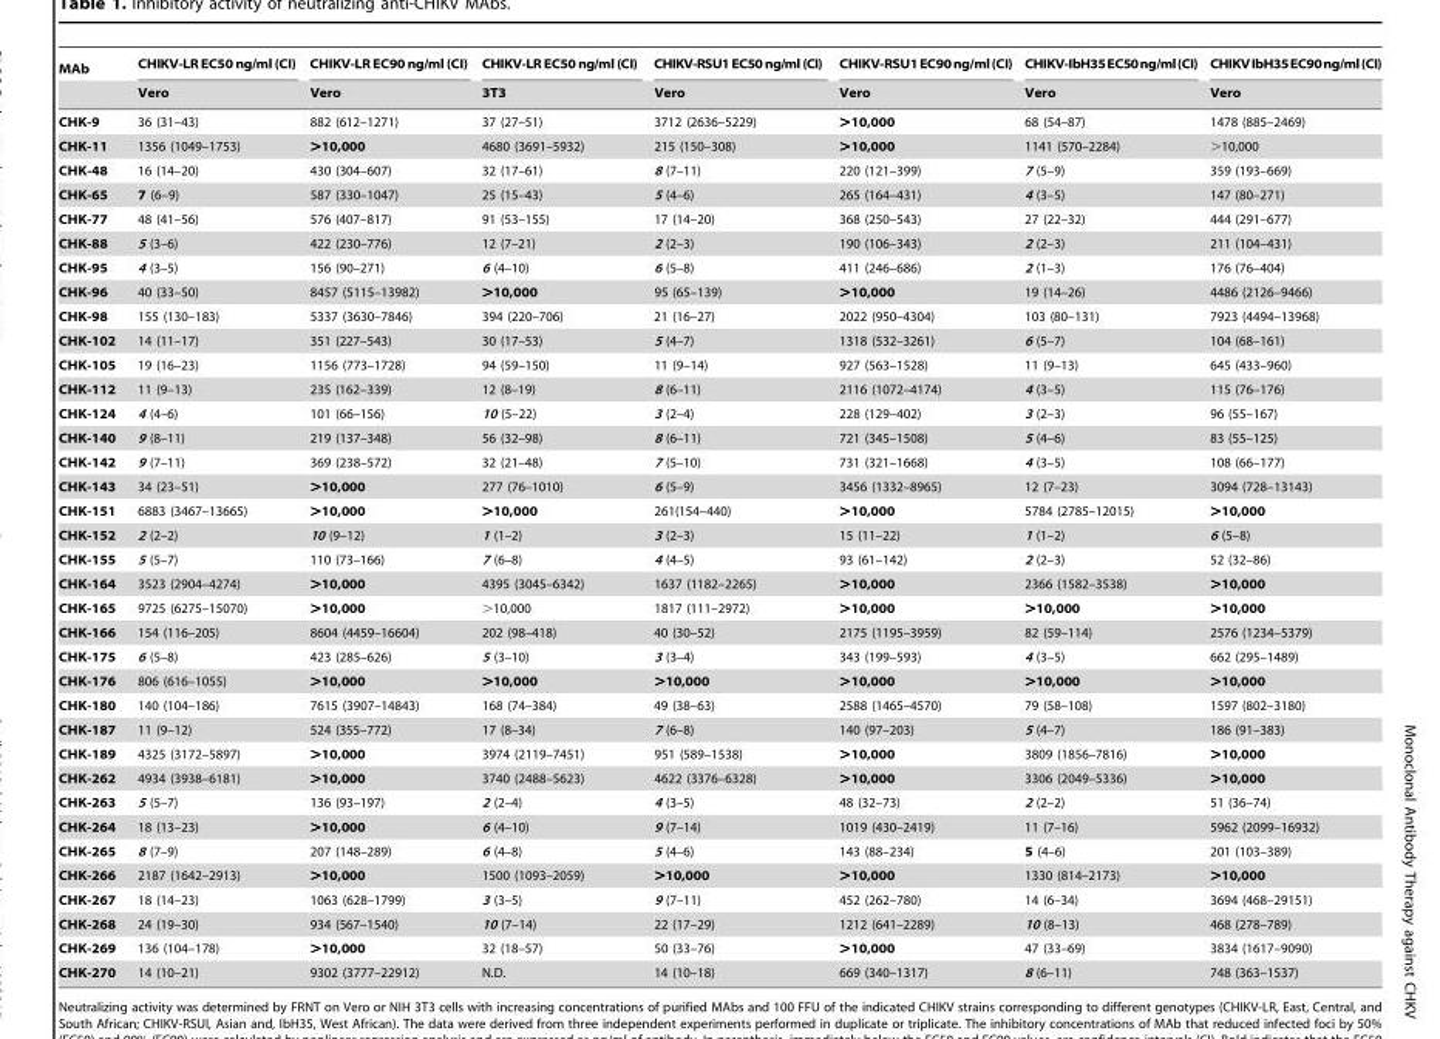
<table><thead><tr><td rowspan="2">MAb</td><td rowspan="2">CHIKV-LR EC50 ng/ml (CI) Vero</td><td rowspan="2">CHIKV-LR EC90 ng/ml (CI) Vero</td><td rowspan="2">CHIKV-LR EC50 ng/ml (CI) 3T3</td><td rowspan="2">CHIKV-RSU1 EC50ng/ml(CI) Vero</td><td rowspan="2">CHIKV-RSU1EC90ng/ml(CI) Vero</td><td rowspan="2">CHIKV-IbH35EC50ng/ml(CI) Vero</td><td rowspan="2">CHIKVIbH35EC90ng/ml(CI) Vero</td></tr><tr></tr></thead><tbody><tr><td>CHK-9</td><td>36 (31–43)</td><td>882 (612–1271)</td><td>37 (27–51)</td><td>3712 (2636–5229)</td><td>&gt;10,000</td><td>68 (54–87)</td><td>1478 (885–2469)</td></tr><tr><td>CHK-11</td><td>1356 (1049–1753)</td><td>&gt;10,000</td><td>4680 (3691–5932)</td><td>215 (150–308)</td><td>&gt;10,000</td><td>1141 (570–2284)</td><td>&gt;10,000</td></tr><tr><td>CHK-48</td><td>16 (14–20)</td><td>430 (304–607)</td><td>32 (17–61)</td><td>8 (7–11)</td><td>220 (121–399)</td><td>7 (5–9)</td><td>359 (193–669)</td></tr><tr><td>CHK-65</td><td>7 (6–9)</td><td>587 (330–1047)</td><td>25 (15–43)</td><td>5 (4–6)</td><td>265 (164–431)</td><td>4 (3–5)</td><td>147 (80–271)</td></tr><tr><td>CHK-77</td><td>48 (41–56)</td><td>576 (407–817)</td><td>91 (53–155)</td><td>17 (14–20)</td><td>368 (250–543)</td><td>27 (22–32)</td><td>444 (291–677)</td></tr><tr><td>CHK-88</td><td>5 (3–6)</td><td>422 (230–776)</td><td>12 (7–21)</td><td>2 (2–3)</td><td>190 (106–343)</td><td>2 (2–3)</td><td>211 (104–431)</td></tr><tr><td>CHK-95</td><td>4 (3–5)</td><td>156 (90–271)</td><td>6 (4–10)</td><td>6 (5–8)</td><td>411 (246–686)</td><td>2 (1–3)</td><td>176 (76–404)</td></tr><tr><td>CHK-96</td><td>40 (33–50)</td><td>8457 (5115–13982)</td><td>&gt;10,000</td><td>95 (65–139)</td><td>&gt;10,000</td><td>19 (14–26)</td><td>4486 (2126–9466)</td></tr><tr><td>CHK-98</td><td>155 (130–183)</td><td>5337 (3630–7846)</td><td>394 (220–706)</td><td>21 (16–27)</td><td>2022 (950–4304)</td><td>103 (80–131)</td><td>7923 (4494–13968)</td></tr><tr><td>CHK-102</td><td>14 (11–17)</td><td>351 (227–543)</td><td>30 (17–53)</td><td>5 (4–7)</td><td>1318 (532–3261)</td><td>6 (5–7)</td><td>104 (68–161)</td></tr><tr><td>CHK-105</td><td>19 (16–23)</td><td>1156 (773–1728)</td><td>94 (59–150)</td><td>11 (9–14)</td><td>927 (563–1528)</td><td>11 (9–13)</td><td>645 (433–960)</td></tr><tr><td>CHK-112</td><td>11 (9–13)</td><td>235 (162–339)</td><td>12 (8–19)</td><td>8 (6–11)</td><td>2116 (1072–4174)</td><td>4 (3–5)</td><td>115 (76–176)</td></tr><tr><td>CHK-124</td><td>4 (4–6)</td><td>101 (66–156)</td><td>10 (5–22)</td><td>3 (2–4)</td><td>228 (129–402)</td><td>3 (2–3)</td><td>96 (55–167)</td></tr><tr><td>CHK-140</td><td>9 (8–11)</td><td>219 (137–348)</td><td>56 (32–98)</td><td>8 (6–11)</td><td>721 (345–1508)</td><td>5 (4–6)</td><td>83 (55–125)</td></tr><tr><td>CHK-142</td><td>9 (7–11)</td><td>369 (238–572)</td><td>32 (21–48)</td><td>7 (5–10)</td><td>731 (321–1668)</td><td>4 (3–5)</td><td>108 (66–177)</td></tr><tr><td>CHK-143</td><td>34 (23–51)</td><td>&gt;10,000</td><td>277 (76–1010)</td><td>6 (5–9)</td><td>3456 (1332–8965)</td><td>12 (7–23)</td><td>3094 (728–13143)</td></tr><tr><td>CHK-151</td><td>6883 (3467–13665)</td><td>&gt;10,000</td><td>&gt;10,000</td><td>261(154–440)</td><td>&gt;10,000</td><td>5784 (2785–12015)</td><td>&gt;10,000</td></tr><tr><td>CHK-152</td><td>2 (2–2)</td><td>10 (9–12)</td><td>1 (1–2)</td><td>3 (2–3)</td><td>15 (11–22)</td><td>1 (1–2)</td><td>6 (5–8)</td></tr><tr><td>CHK-155</td><td>5 (5–7)</td><td>110 (73–166)</td><td>7 (6–8)</td><td>4 (4–5)</td><td>93 (61–142)</td><td>2 (2–3)</td><td>52 (32–86)</td></tr><tr><td>CHK-164</td><td>3523 (2904–4274)</td><td>&gt;10,000</td><td>4395 (3045–6342)</td><td>1637 (1182–2265)</td><td>&gt;10,000</td><td>2366 (1582–3538)</td><td>&gt;10,000</td></tr><tr><td>CHK-165</td><td>9725 (6275–15070)</td><td>&gt;10,000</td><td>&gt;10,000</td><td>1817 (111–2972)</td><td>&gt;10,000</td><td>&gt;10,000</td><td>&gt;10,000</td></tr><tr><td>CHK-166</td><td>154 (116–205)</td><td>8604 (4459–16604)</td><td>202 (98–418)</td><td>40 (30–52)</td><td>2175 (1195–3959)</td><td>82 (59–114)</td><td>2576 (1234–5379)</td></tr><tr><td>CHK-175</td><td>6 (5–8)</td><td>423 (285–626)</td><td>5 (3–10)</td><td>3 (3–4)</td><td>343 (199–593)</td><td>4 (3–5)</td><td>662 (295–1489)</td></tr><tr><td>CHK-176</td><td>806 (616–1055)</td><td>&gt;10,000</td><td>&gt;10,000</td><td>&gt;10,000</td><td>&gt;10,000</td><td>&gt;10,000</td><td>&gt;10,000</td></tr><tr><td>CHK-180</td><td>140 (104–186)</td><td>7615 (3907–14843)</td><td>168 (74–384)</td><td>49 (38–63)</td><td>2588 (1465–4570)</td><td>79 (58–108)</td><td>1597 (802–3180)</td></tr><tr><td>CHK-187</td><td>11 (9–12)</td><td>524 (355–772)</td><td>17 (8–34)</td><td>7 (6–8)</td><td>140 (97–203)</td><td>5 (4–7)</td><td>186 (91–383)</td></tr><tr><td>CHK-189</td><td>4325 (3172–5897)</td><td>&gt;10,000</td><td>3974 (2119–7451)</td><td>951 (589–1538)</td><td>&gt;10,000</td><td>3809 (1856–7816)</td><td>&gt;10,000</td></tr><tr><td>CHK-262</td><td>4934 (3938–6181)</td><td>&gt;10,000</td><td>3740 (2488–5623)</td><td>4622 (3376–6328)</td><td>&gt;10,000</td><td>3306 (2049–5336)</td><td>&gt;10,000</td></tr><tr><td>CHK-263</td><td>5 (5–7)</td><td>136 (93–197)</td><td>2 (2–4)</td><td>4 (3–5)</td><td>48 (32–73)</td><td>2 (2–2)</td><td>51 (36–74)</td></tr><tr><td>CHK-264</td><td>18 (13–23)</td><td>&gt;10,000</td><td>6 (4–10)</td><td>9 (7–14)</td><td>1019 (430–2419)</td><td>11 (7–16)</td><td>5962 (2099–16932)</td></tr><tr><td>CHK-265</td><td>8 (7–9)</td><td>207 (148–289)</td><td>6 (4–8)</td><td>5 (4–6)</td><td>143 (88–234)</td><td>5 (4–6)</td><td>201 (103–389)</td></tr><tr><td>CHK-266</td><td>2187 (1642–2913)</td><td>&gt;10,000</td><td>1500 (1093–2059)</td><td>&gt;10,000</td><td>&gt;10,000</td><td>1330 (814–2173)</td><td>&gt;10,000</td></tr><tr><td>CHK-267</td><td>18 (14–23)</td><td>1063 (628–1799)</td><td>3 (3–5)</td><td>9 (7–11)</td><td>452 (262–780)</td><td>14 (6–34)</td><td>3694 (468–29151)</td></tr><tr><td>CHK-268</td><td>24 (19–30)</td><td>934 (567–1540)</td><td>10 (7–14)</td><td>22 (17–29)</td><td>1212 (641–2289)</td><td>10 (8–13)</td><td>468 (278–789)</td></tr><tr><td>CHK-269</td><td>136 (104–178)</td><td>&gt;10,000</td><td>32 (18–57)</td><td>50 (33–76)</td><td>&gt;10,000</td><td>47 (33–69)</td><td>3834 (1617–9090)</td></tr><tr><td>CHK-270</td><td>14 (10–21)</td><td>9302 (3777–22912)</td><td>N.D.</td><td>14 (10–18)</td><td>669 (340–1317)</td><td>8 (6–11)</td><td>748 (363–1537)</td></tr></tbody></table>